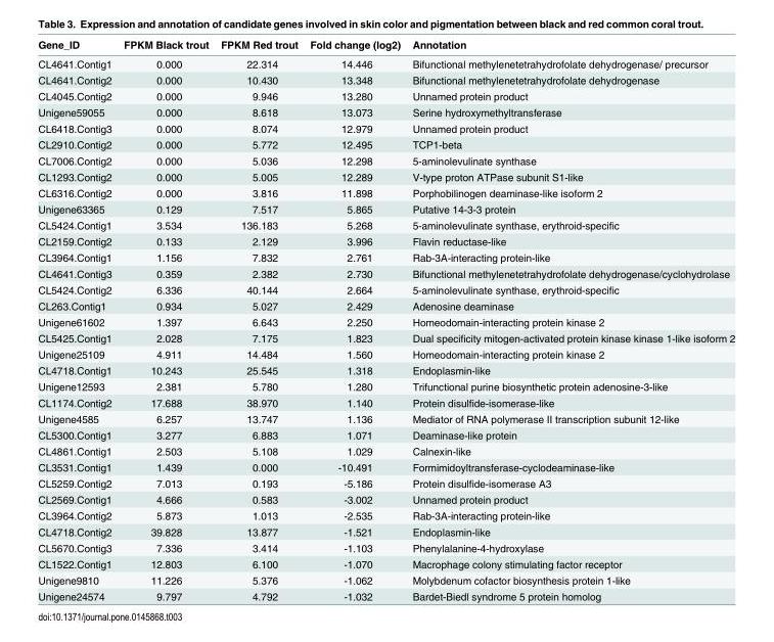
<table><thead><tr><td>Gene_ID</td><td>FPKM Black trout</td><td>FPKM Red trout</td><td>Fold change (log2)</td><td>Annotation</td></tr></thead><tbody><tr><td>CL4641.Contig1</td><td>0.000</td><td>22.314</td><td>14.446</td><td>Bifunctional methylenetetrahydrofolate dehydrogenase/ precursor</td></tr><tr><td>CL4641.Contig2</td><td>0.000</td><td>10.430</td><td>13.348</td><td>Bifunctional methylenetetrahydrofolate dehydrogenase</td></tr><tr><td>CL4045.Contig2</td><td>0.000</td><td>9.946</td><td>13.280</td><td>Unnamed protein product</td></tr><tr><td>Unigene59055</td><td>0.000</td><td>8.618</td><td>13.073</td><td>Serine hydroxymethyltransferase</td></tr><tr><td>CL6418.Contig3</td><td>0.000</td><td>8.074</td><td>12.979</td><td>Unnamed protein product</td></tr><tr><td>CL2910.Contig2</td><td>0.000</td><td>5.772</td><td>12.495</td><td>TCP1-beta</td></tr><tr><td>CL7006.Contig2</td><td>0.000</td><td>5.036</td><td>12.298</td><td>5-aminolevulinate synthase</td></tr><tr><td>CL1293.Contig2</td><td>0.000</td><td>5.005</td><td>12.289</td><td>V-type proton ATPase subunit S1-like</td></tr><tr><td>CL6316.Contig2</td><td>0.000</td><td>3.816</td><td>11.898</td><td>Porphobilinogen deaminase-like isoform 2</td></tr><tr><td>Unigene63365</td><td>0.129</td><td>7.517</td><td>5.865</td><td>Putative 14-3-3 protein</td></tr><tr><td>CL5424.Contig1</td><td>3.534</td><td>136.183</td><td>5.268</td><td>5-aminolevulinate synthase, erythroid-specific</td></tr><tr><td>CL2159.Contig2</td><td>0.133</td><td>2.129</td><td>3.996</td><td>Flavin reductase-like</td></tr><tr><td>CL3964.Contig1</td><td>1.156</td><td>7.832</td><td>2.761</td><td>Rab-3A-interacting protein-like</td></tr><tr><td>CL4641.Contig3</td><td>0.359</td><td>2.382</td><td>2.730</td><td>Bifunctional methylenetetrahydrofolate dehydrogenase/cyclohydrolase</td></tr><tr><td>CL5424.Contig2</td><td>6.336</td><td>40.144</td><td>2.664</td><td>5-aminolevulinate synthase, erythroid-specific</td></tr><tr><td>CL263.Contig1</td><td>0.934</td><td>5.027</td><td>2.429</td><td>Adenosine deaminase</td></tr><tr><td>Unigene61602</td><td>1.397</td><td>6.643</td><td>2.250</td><td>Homeodomain-interacting protein kinase 2</td></tr><tr><td>CL5425.Contig1</td><td>2.028</td><td>7.175</td><td>1.823</td><td>Dual specificity mitogen-activated protein kinase kinase 1-like isoform 2</td></tr><tr><td>Unigene25109</td><td>4.911</td><td>14.484</td><td>1.560</td><td>Homeodomain-interacting protein kinase 2</td></tr><tr><td>CL4718.Contig1</td><td>10.243</td><td>25.545</td><td>1.318</td><td>Endoplasmin-like</td></tr><tr><td>Unigene12593</td><td>2.381</td><td>5.780</td><td>1.280</td><td>Trifunctional purine biosynthetic protein adenosine-3-like</td></tr><tr><td>CL1174.Contig2</td><td>17.688</td><td>38.970</td><td>1.140</td><td>Protein disulfide-isomerase-like</td></tr><tr><td>Unigene4585</td><td>6.257</td><td>13.747</td><td>1.136</td><td>Mediator of RNA polymerase II transcription subunit 12-like</td></tr><tr><td>CL5300.Contig1</td><td>3.277</td><td>6.883</td><td>1.071</td><td>Deaminase-like protein</td></tr><tr><td>CL4861.Contig1</td><td>2.503</td><td>5.108</td><td>1.029</td><td>Calnexin-like</td></tr><tr><td>CL3531.Contig1</td><td>1.439</td><td>0.000</td><td>-10.491</td><td>Formimidoyltransferase-cyclodeaminase-like</td></tr><tr><td>CL5259.Contig2</td><td>7.013</td><td>0.193</td><td>-5.186</td><td>Protein disulfide-isomerase A3</td></tr><tr><td>CL2569.Contig1</td><td>4.666</td><td>0.583</td><td>-3.002</td><td>Unnamed protein product</td></tr><tr><td>CL3964.Contig2</td><td>5.873</td><td>1.013</td><td>-2.535</td><td>Rab-3A-interacting protein-like</td></tr><tr><td>CL4718.Contig2</td><td>39.828</td><td>13.877</td><td>-1.521</td><td>Endoplasmin-like</td></tr><tr><td>CL5670.Contig3</td><td>7.336</td><td>3.414</td><td>-1.103</td><td>Phenylalanine-4-hydroxylase</td></tr><tr><td>CL1522.Contig1</td><td>12.803</td><td>6.100</td><td>-1.070</td><td>Macrophage colony stimulating factor receptor</td></tr><tr><td>Unigene9810</td><td>11.226</td><td>5.376</td><td>-1.062</td><td>Molybdenum cofactor biosynthesis protein 1-like</td></tr><tr><td>Unigene24574</td><td>9.797</td><td>4.792</td><td>-1.032</td><td>Bardet-Biedl syndrome 5 protein homolog</td></tr></tbody></table>